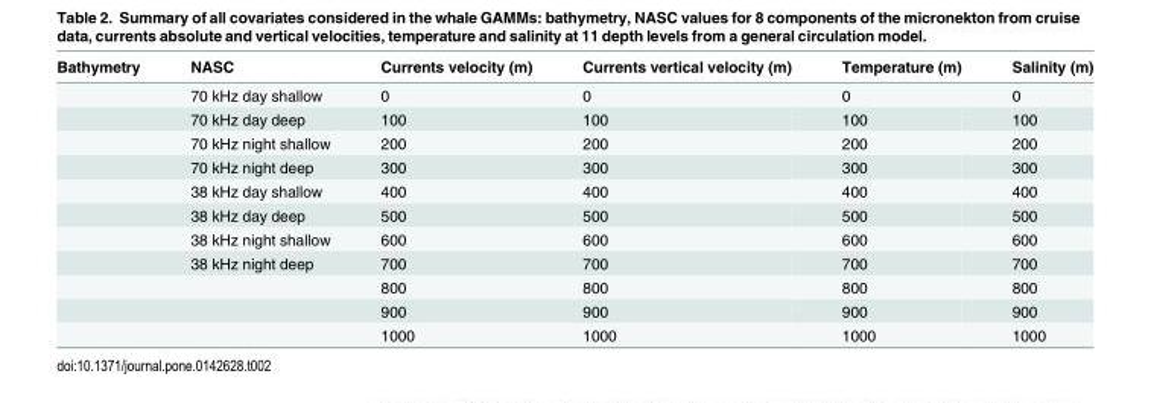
<table><thead><tr><td>Bathymetry</td><td>NASC</td><td>Currents velocity (m)</td><td>Currents vertical velocity (m)</td><td>Temperature (m)</td><td>Salinity (m)</td></tr></thead><tbody><tr><td></td><td>70 kHz day shallow</td><td>0</td><td>0</td><td>0</td><td>0</td></tr><tr><td></td><td>70 kHz day deep</td><td>100</td><td>100</td><td>100</td><td>100</td></tr><tr><td></td><td>70 kHz night shallow</td><td>200</td><td>200</td><td>200</td><td>200</td></tr><tr><td></td><td>70 kHz night deep</td><td>300</td><td>300</td><td>300</td><td>300</td></tr><tr><td></td><td>38 kHz day shallow</td><td>400</td><td>400</td><td>400</td><td>400</td></tr><tr><td></td><td>38 kHz day deep</td><td>500</td><td>500</td><td>500</td><td>500</td></tr><tr><td></td><td>38 kHz night shallow</td><td>600</td><td>600</td><td>600</td><td>600</td></tr><tr><td></td><td>38 kHz night deep</td><td>700</td><td>700</td><td>700</td><td>700</td></tr><tr><td></td><td></td><td>800</td><td>800</td><td>800</td><td>800</td></tr><tr><td></td><td></td><td>900</td><td>900</td><td>900</td><td>900</td></tr><tr><td></td><td></td><td>1000</td><td>1000</td><td>1000</td><td>1000</td></tr></tbody></table>